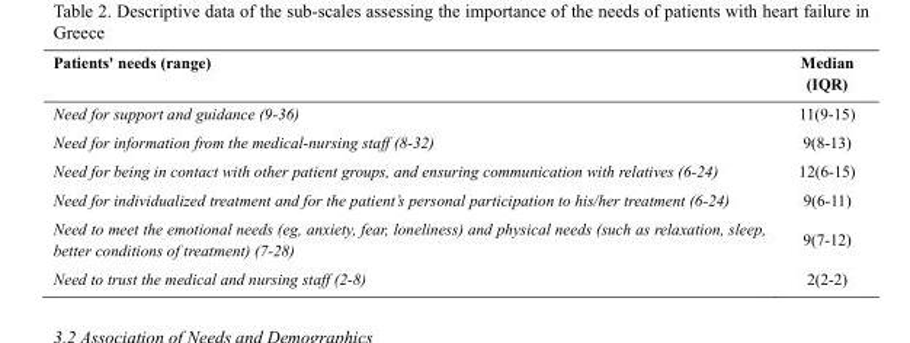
<table><thead><tr><td>Patients&#x27; needs (range)</td><td>Median (IQR)</td></tr></thead><tbody><tr><td>Need for support and guidance (9-36)</td><td>11(9-15)</td></tr><tr><td>Need for information from the medical-nursing staff (8-32)</td><td>9(8-13)</td></tr><tr><td>Need for being in contact with other patient groups, and ensuring communication with relatives (6-24)</td><td>12(6-15)</td></tr><tr><td>Need for individualized treatment and for the patient’s personal participation to his/her treatment (6-24)</td><td>9(6-11)</td></tr><tr><td>Need to meet the emotional needs (eg, anxiety, fear, loneliness) and physical needs (such as relaxation, sleep, better conditions of treatment) (7-28)</td><td>9(7-12)</td></tr><tr><td>Need to trust the medical and nursing staff (2-8)</td><td>2(2-2)</td></tr></tbody></table>